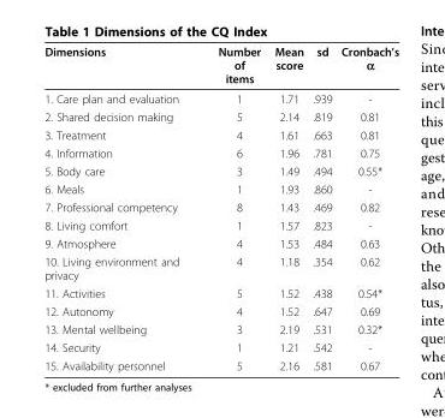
<table><thead><tr><td>Dimensions</td><td>Number of items</td><td>Mean score</td><td>sd</td><td>Cronbach’s α</td></tr></thead><tbody><tr><td>1. Care plan and evaluation</td><td>1</td><td>1.71</td><td>.939</td><td>-</td></tr><tr><td>2. Shared decision making</td><td>5</td><td>2.14</td><td>.819</td><td>0.81</td></tr><tr><td>3. Treatment</td><td>4</td><td>1.61</td><td>.663</td><td>0.81</td></tr><tr><td>4. Information</td><td>6</td><td>1.96</td><td>.781</td><td>0.75</td></tr><tr><td>5. Body care</td><td>3</td><td>1.49</td><td>.494</td><td>0.55*</td></tr><tr><td>6. Meals</td><td>1</td><td>1.93</td><td>.860</td><td>-</td></tr><tr><td>7. Professional competency</td><td>8</td><td>1.43</td><td>.469</td><td>0.82</td></tr><tr><td>8. Living comfort</td><td>1</td><td>1.57</td><td>.823</td><td>-</td></tr><tr><td>9. Atmosphere</td><td>4</td><td>1.53</td><td>.484</td><td>0.63</td></tr><tr><td>10. Living environment and privacy</td><td>4</td><td>1.18</td><td>.354</td><td>0.62</td></tr><tr><td>11. Activities</td><td>5</td><td>1.52</td><td>.438</td><td>0.54*</td></tr><tr><td>12. Autonomy</td><td>4</td><td>1.52</td><td>.647</td><td>0.69</td></tr><tr><td>13. Mental wellbeing</td><td>3</td><td>2.19</td><td>.531</td><td>0.32*</td></tr><tr><td>14. Security</td><td>1</td><td>1.21</td><td>.542</td><td>-</td></tr><tr><td>15. Availability personnel</td><td>5</td><td>2.16</td><td>.581</td><td>0.67</td></tr></tbody></table>